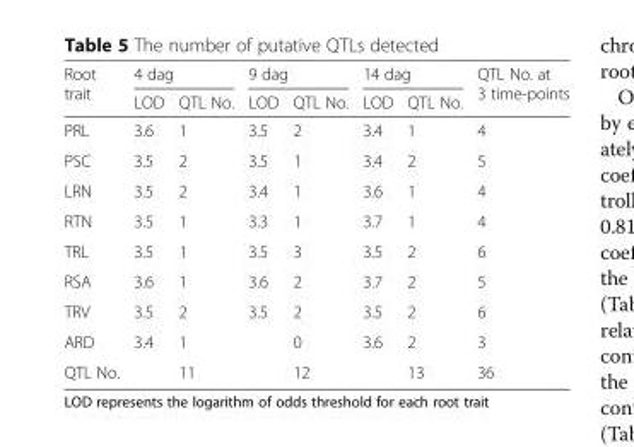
<table><thead><tr><td rowspan="2">Root trait</td><td colspan="2">4 dag</td><td colspan="2">9 dag</td><td colspan="2">14 dag</td><td rowspan="2">QTL No. at 3 time-points</td></tr><tr><td>LOD</td><td>QTL No.</td><td>LOD</td><td>QTL No.</td><td>LOD</td><td>QTL No.</td></tr></thead><tbody><tr><td>PRL</td><td>3.6</td><td>1</td><td>3.5</td><td>2</td><td>3.4</td><td>1</td><td>4</td></tr><tr><td>PSC</td><td>3.5</td><td>2</td><td>3.5</td><td>1</td><td>3.4</td><td>2</td><td>5</td></tr><tr><td>LRN</td><td>3.5</td><td>2</td><td>3.4</td><td>1</td><td>3.6</td><td>1</td><td>4</td></tr><tr><td>RTN</td><td>3.5</td><td>1</td><td>3.3</td><td>1</td><td>3.7</td><td>1</td><td>4</td></tr><tr><td>TRL</td><td>3.5</td><td>1</td><td>3.5</td><td>3</td><td>3.5</td><td>2</td><td>6</td></tr><tr><td>RSA</td><td>3.6</td><td>1</td><td>3.6</td><td>2</td><td>3.7</td><td>2</td><td>5</td></tr><tr><td>TRV</td><td>3.5</td><td>2</td><td>3.5</td><td>2</td><td>3.5</td><td>2</td><td>6</td></tr><tr><td>ARD</td><td>3.4</td><td>1</td><td></td><td>0</td><td>3.6</td><td>2</td><td>3</td></tr><tr><td>QTL No.</td><td></td><td>11</td><td></td><td>12</td><td></td><td>13</td><td>36</td></tr></tbody></table>